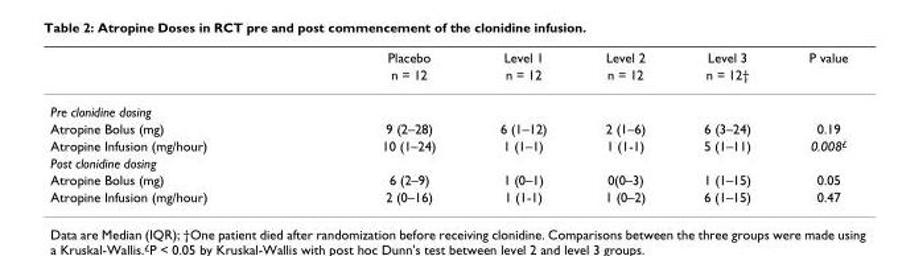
<table><thead><tr><td rowspan="2"></td><td rowspan="2">Placebo n = 12</td><td rowspan="2">Level 1 n = 12</td><td rowspan="2">Level 2 n = 12</td><td rowspan="2">Level 3 n = 12†</td><td rowspan="2">P value</td></tr><tr></tr></thead><tbody><tr><td colspan="6">Pre clonidine dosing</td></tr><tr><td>Atropine Bolus (mg)</td><td>9 (2–28)</td><td>6 (1–12)</td><td>2 (1–6)</td><td>6 (3–24)</td><td>0.19</td></tr><tr><td>Atropine Infusion (mg/hour)</td><td>10 (1–24)</td><td>1 (1–1)</td><td>1 (1-1)</td><td>5 (1–11)</td><td>0.008<sup>£</sup></td></tr><tr><td colspan="6">Post clonidine dosing</td></tr><tr><td>Atropine Bolus (mg)</td><td>6 (2–9)</td><td>1 (0–1)</td><td>0(0–3)</td><td>1 (1–15)</td><td>0.05</td></tr><tr><td>Atropine Infusion (mg/hour)</td><td>2 (0–16)</td><td>1 (1-1)</td><td>1 (0–2)</td><td>6 (1–15)</td><td>0.47</td></tr></tbody></table>